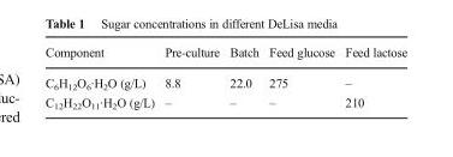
<table><thead><tr><td>Component</td><td>Pre-culture</td><td>Batch</td><td>Feed glucose</td><td>Feed lactose</td></tr></thead><tbody><tr><td>C<sub>6</sub>H<sub>12</sub>O<sub>6</sub>·H<sub>2</sub>O (g/L)</td><td>8.8</td><td>22.0</td><td>275</td><td>–</td></tr><tr><td>C<sub>12</sub>H<sub>22</sub>O<sub>11</sub>·H<sub>2</sub>O (g/L)</td><td>–</td><td>–</td><td>–</td><td>210</td></tr></tbody></table>